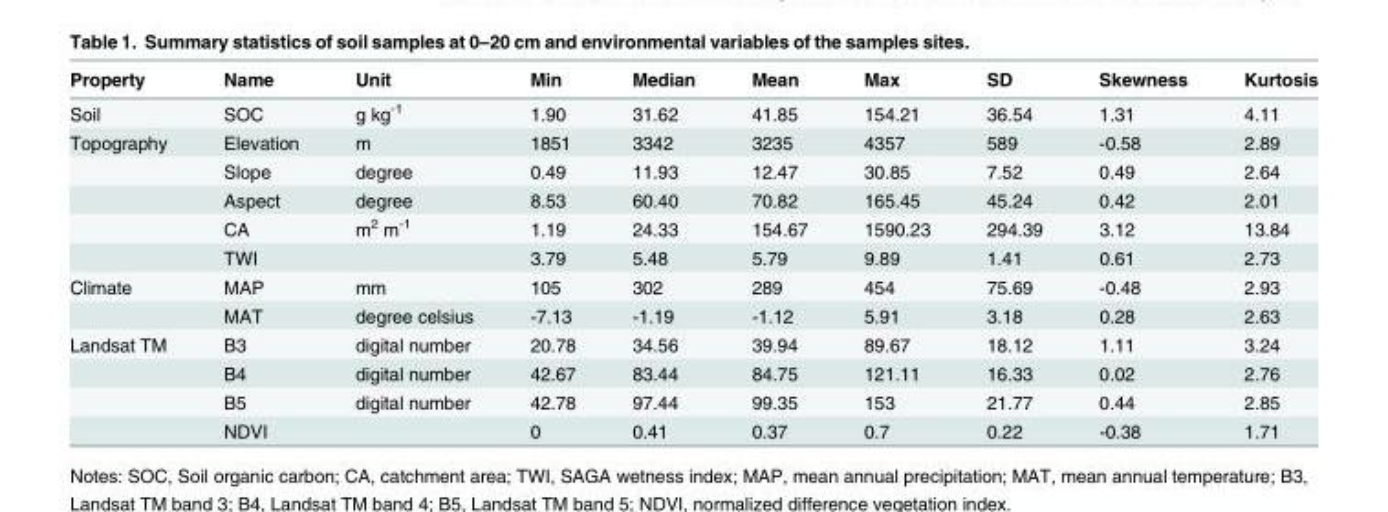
<table><thead><tr><td>Property</td><td>Name</td><td>Unit</td><td>Min</td><td>Median</td><td>Mean</td><td>Max</td><td>SD</td><td>Skewness</td><td>Kurtosis</td></tr></thead><tbody><tr><td>Soil</td><td>SOC</td><td>g kg<sup>-1</sup></td><td>1.90</td><td>31.62</td><td>41.85</td><td>154.21</td><td>36.54</td><td>1.31</td><td>4.11</td></tr><tr><td rowspan="5">Topography</td><td>Elevation</td><td>m</td><td>1851</td><td>3342</td><td>3235</td><td>4357</td><td>589</td><td>-0.58</td><td>2.89</td></tr><tr><td>Slope</td><td>degree</td><td>0.49</td><td>11.93</td><td>12.47</td><td>30.85</td><td>7.52</td><td>0.49</td><td>2.64</td></tr><tr><td>Aspect</td><td>degree</td><td>8.53</td><td>60.40</td><td>70.82</td><td>165.45</td><td>45.24</td><td>0.42</td><td>2.01</td></tr><tr><td>CA</td><td>m<sup>2</sup> m<sup>-1</sup></td><td>1.19</td><td>24.33</td><td>154.67</td><td>1590.23</td><td>294.39</td><td>3.12</td><td>13.84</td></tr><tr><td>TWI</td><td></td><td>3.79</td><td>5.48</td><td>5.79</td><td>9.89</td><td>1.41</td><td>0.61</td><td>2.73</td></tr><tr><td rowspan="2">Climate</td><td>MAP</td><td>mm</td><td>105</td><td>302</td><td>289</td><td>454</td><td>75.69</td><td>-0.48</td><td>2.93</td></tr><tr><td>MAT</td><td>degree celsius</td><td>-7.13</td><td>-1.19</td><td>-1.12</td><td>5.91</td><td>3.18</td><td>0.28</td><td>2.63</td></tr><tr><td rowspan="4">Landsat TM</td><td>B3</td><td>digital number</td><td>20.78</td><td>34.56</td><td>39.94</td><td>89.67</td><td>18.12</td><td>1.11</td><td>3.24</td></tr><tr><td>B4</td><td>digital number</td><td>42.67</td><td>83.44</td><td>84.75</td><td>121.11</td><td>16.33</td><td>0.02</td><td>2.76</td></tr><tr><td>B5</td><td>digital number</td><td>42.78</td><td>97.44</td><td>99.35</td><td>153</td><td>21.77</td><td>0.44</td><td>2.85</td></tr><tr><td>NDVI</td><td></td><td>0</td><td>0.41</td><td>0.37</td><td>0.7</td><td>0.22</td><td>-0.38</td><td>1.71</td></tr></tbody></table>